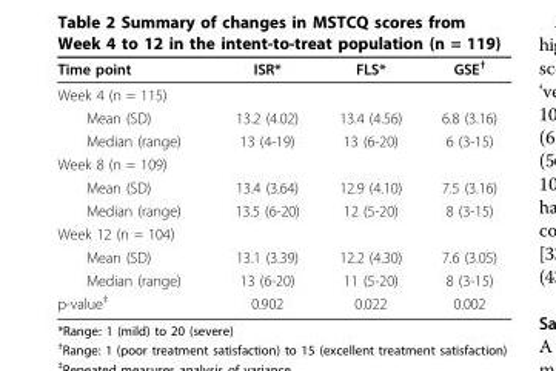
<table><thead><tr><td>Time point</td><td>ISR*</td><td>FLS*</td><td>GSE<sup>†</sup></td></tr></thead><tbody><tr><td colspan="4">Week 4 (n = 115)</td></tr><tr><td>Mean (SD)</td><td>13.2 (4.02)</td><td>13.4 (4.56)</td><td>6.8 (3.16)</td></tr><tr><td>Median (range)</td><td>13 (4-19)</td><td>13 (6-20)</td><td>6 (3-15)</td></tr><tr><td colspan="4">Week 8 (n = 109)</td></tr><tr><td>Mean (SD)</td><td>13.4 (3.64)</td><td>12.9 (4.10)</td><td>7.5 (3.16)</td></tr><tr><td>Median (range)</td><td>13.5 (6-20)</td><td>12 (5-20)</td><td>8 (3-15)</td></tr><tr><td colspan="4">Week 12 (n = 104)</td></tr><tr><td>Mean (SD)</td><td>13.1 (3.39)</td><td>12.2 (4.30)</td><td>7.6 (3.05)</td></tr><tr><td>Median (range)</td><td>13 (6-20)</td><td>11 (5-20)</td><td>8 (3-15)</td></tr><tr><td>p-value<sup>‡</sup></td><td>0.902</td><td>0.022</td><td>0.002</td></tr></tbody></table>